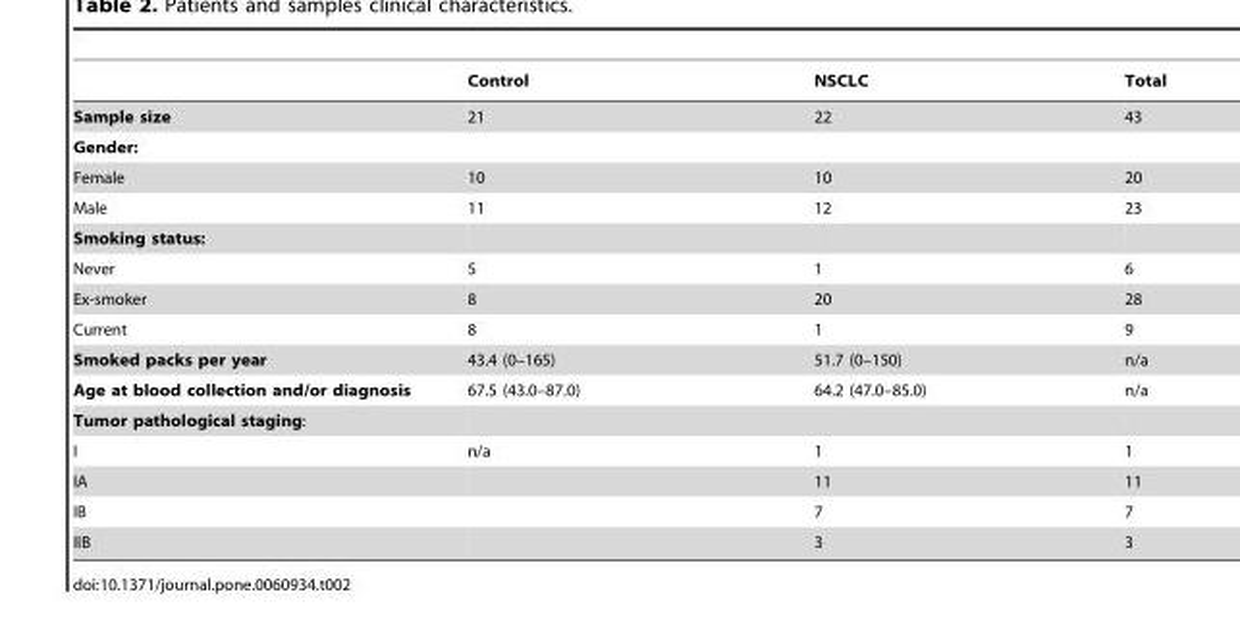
<table><thead><tr><td></td><td>Control</td><td>NSCLC</td><td>Total</td></tr></thead><tbody><tr><td>Sample size</td><td>21</td><td>22</td><td>43</td></tr><tr><td colspan="4">Gender:</td></tr><tr><td>Female</td><td>10</td><td>10</td><td>20</td></tr><tr><td>Male</td><td>11</td><td>12</td><td>23</td></tr><tr><td colspan="4">Smoking status:</td></tr><tr><td>Never</td><td>5</td><td>1</td><td>6</td></tr><tr><td>Ex-smoker</td><td>8</td><td>20</td><td>28</td></tr><tr><td>Current</td><td>8</td><td>1</td><td>9</td></tr><tr><td>Smoked packs per year</td><td>43.4 (0–165)</td><td>51.7 (0–150)</td><td>n/a</td></tr><tr><td>Age at blood collection and/or diagnosis</td><td>67.5 (43.0–87.0)</td><td>64.2 (47.0–85.0)</td><td>n/a</td></tr><tr><td colspan="4">Tumor pathological staging:</td></tr><tr><td>I</td><td>n/a</td><td>1</td><td>1</td></tr><tr><td>IA</td><td></td><td>11</td><td>11</td></tr><tr><td>IB</td><td></td><td>7</td><td>7</td></tr><tr><td>IIB</td><td></td><td>3</td><td>3</td></tr></tbody></table>